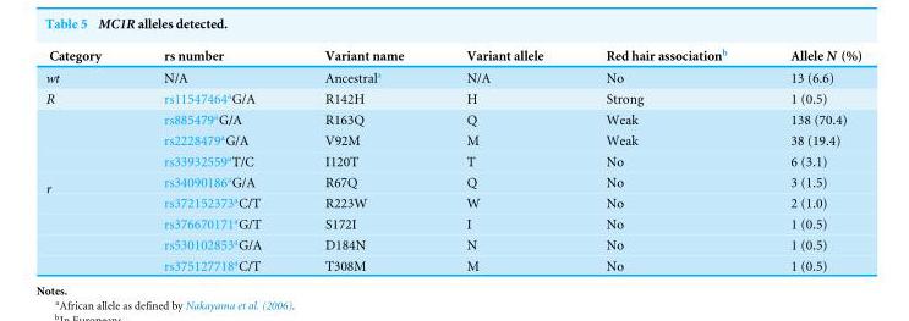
<table><thead><tr><td>Category</td><td>rs number</td><td>Variant name</td><td>Variant allele</td><td>Red hair association<sup>b</sup></td><td>Allele N (%)</td></tr></thead><tbody><tr><td>wt</td><td>N/A</td><td>Ancestral<sup>a</sup></td><td>N/A</td><td>No</td><td>13 (6.6)</td></tr><tr><td>R</td><td>rs11547464<sup>a</sup>G/A</td><td>R142H</td><td>H</td><td>Strong</td><td>1 (0.5)</td></tr><tr><td rowspan="8">r</td><td>rs885479<sup>a</sup>G/A</td><td>R163Q</td><td>Q</td><td>Weak</td><td>138 (70.4)</td></tr><tr><td>rs2228479<sup>a</sup>G/A</td><td>V92M</td><td>M</td><td>Weak</td><td>38 (19.4)</td></tr><tr><td>rs33932559<sup>a</sup>T/C</td><td>I120T</td><td>T</td><td>No</td><td>6 (3.1)</td></tr><tr><td>rs34090186<sup>a</sup>G/A</td><td>R67Q</td><td>Q</td><td>No</td><td>3 (1.5)</td></tr><tr><td>rs372152373<sup>a</sup>C/T</td><td>R223W</td><td>W</td><td>No</td><td>2 (1.0)</td></tr><tr><td>rs376670171<sup>a</sup>G/T</td><td>S172I</td><td>I</td><td>No</td><td>1 (0.5)</td></tr><tr><td>rs530102853<sup>a</sup>G/A</td><td>D184N</td><td>N</td><td>No</td><td>1 (0.5)</td></tr><tr><td>rs375127718<sup>a</sup>C/T</td><td>T308M</td><td>M</td><td>No</td><td>1 (0.5)</td></tr></tbody></table>